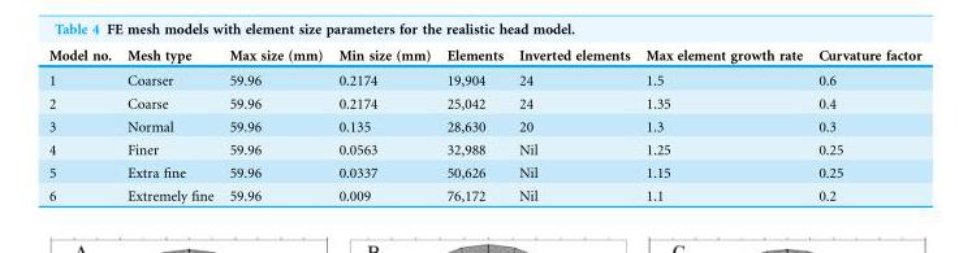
<table><thead><tr><td>Model no.</td><td>Mesh type</td><td>Max size (mm)</td><td>Min size (mm)</td><td>Elements</td><td>Inverted elements</td><td>Max element growth rate</td><td>Curvature factor</td></tr></thead><tbody><tr><td>1</td><td>Coarser</td><td>59.96</td><td>0.2174</td><td>19,904</td><td>24</td><td>1.5</td><td>0.6</td></tr><tr><td>2</td><td>Coarse</td><td>59.96</td><td>0.2174</td><td>25,042</td><td>24</td><td>1.35</td><td>0.4</td></tr><tr><td>3</td><td>Normal</td><td>59.96</td><td>0.135</td><td>28,630</td><td>20</td><td>1.3</td><td>0.3</td></tr><tr><td>4</td><td>Finer</td><td>59.96</td><td>0.0563</td><td>32,988</td><td>Nil</td><td>1.25</td><td>0.25</td></tr><tr><td>5</td><td>Extra fine</td><td>59.96</td><td>0.0337</td><td>50,626</td><td>Nil</td><td>1.15</td><td>0.25</td></tr><tr><td>6</td><td>Extremely fine</td><td>59.96</td><td>0.009</td><td>76,172</td><td>Nil</td><td>1.1</td><td>0.2</td></tr></tbody></table>